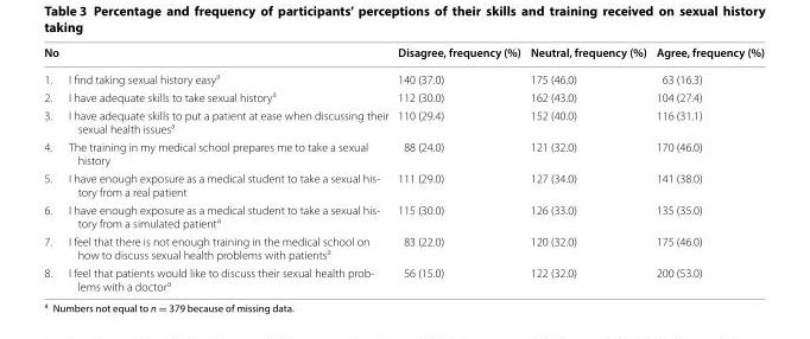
<table><thead><tr><td>No</td><td></td><td>Disagree, frequency (%)</td><td>Neutral, frequency (%)</td><td>Agree, frequency (%)</td></tr></thead><tbody><tr><td>1.</td><td>I find taking sexual history easy<sup>a</sup></td><td>140 (37.0)</td><td>175 (46.0)</td><td>63 (16.3)</td></tr><tr><td>2.</td><td>I have adequate skills to take sexual history<sup>a</sup></td><td>112 (30.0)</td><td>162 (43.0)</td><td>104 (27.4)</td></tr><tr><td>3.</td><td>I have adequate skills to put a patient at ease when discussing their sexual health issues<sup>a</sup></td><td>110 (29.4)</td><td>152 (40.0)</td><td>116 (31.1)</td></tr><tr><td>4.</td><td>The training in my medical school prepares me to take a sexual history</td><td>88 (24.0)</td><td>121 (32.0)</td><td>170 (46.0)</td></tr><tr><td>5.</td><td>I have enough exposure as a medical student to take a sexual his- tory from a real patient</td><td>111 (29.0)</td><td>127 (34.0)</td><td>141 (38.0)</td></tr><tr><td>6.</td><td>I have enough exposure as a medical student to take a sexual his- tory from a simulated patienta</td><td>115 (30.0)</td><td>126 (33.0)</td><td>135 (35.0)</td></tr><tr><td>7.</td><td>I feel that there is not enough training in the medical school on how to discuss sexual health problems with patients<sup>a</sup></td><td>83 (22.0)</td><td>120 (32.0)</td><td>175 (46.0)</td></tr><tr><td>8.</td><td>I feel that patients would like to discuss their sexual health prob- lems with a doctora</td><td>56 (15.0)</td><td>122 (32.0)</td><td>200 (53.0)</td></tr></tbody></table>